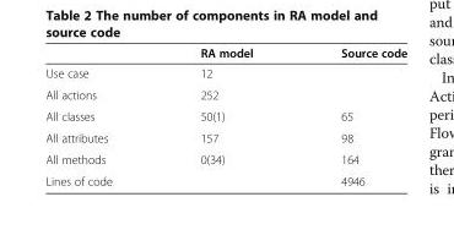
<table><thead><tr><td></td><td>RA model</td><td>Source code</td></tr></thead><tbody><tr><td>Use case</td><td>12</td><td></td></tr><tr><td>All actions</td><td>252</td><td></td></tr><tr><td>All classes</td><td>50(1)</td><td>65</td></tr><tr><td>All attributes</td><td>157</td><td>98</td></tr><tr><td>All methods</td><td>0(34)</td><td>164</td></tr><tr><td>Lines of code</td><td></td><td>4946</td></tr></tbody></table>